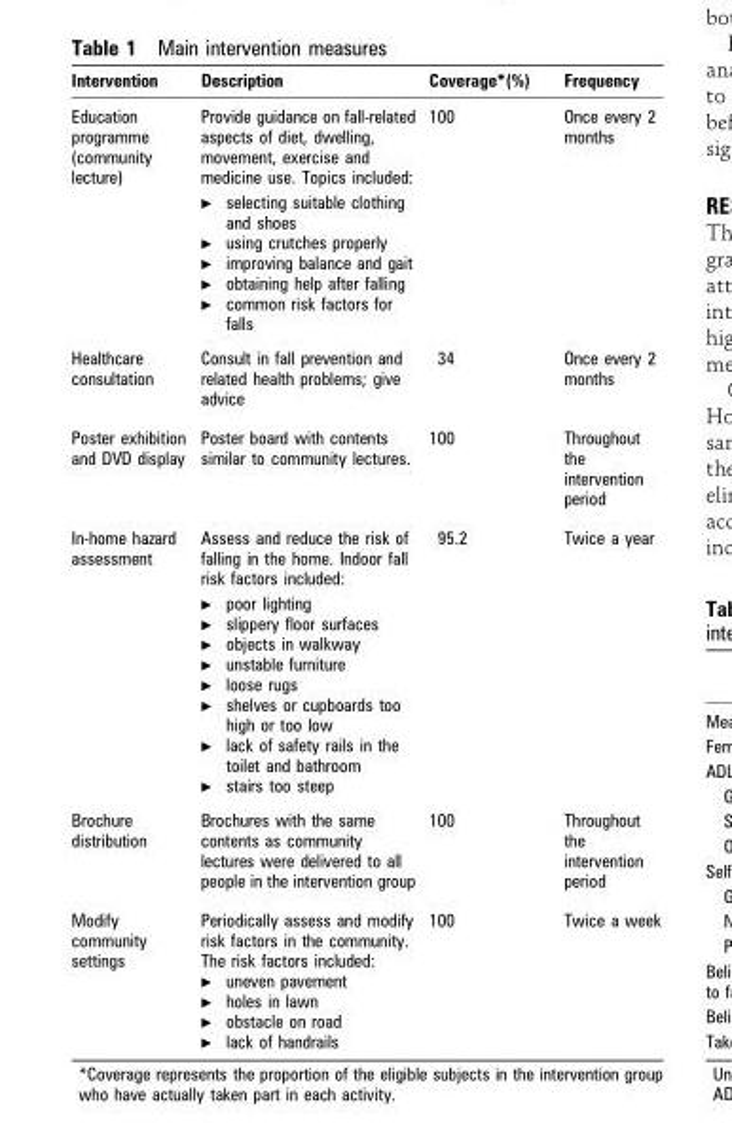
<table><thead><tr><td>Intervention</td><td>Description</td><td>Coverage*(%)</td><td>Frequency</td></tr></thead><tbody><tr><td>Education programme (community lecture)</td><td>Provide guidance on fall-related aspects of diet, dwelling, movement, exercise and medicine use. Topics included: c selecting suitable clothing and shoes c using crutches properly c improving balance and gait c obtaining help after falling c common risk factors for falls</td><td>100</td><td>Once every 2 months</td></tr><tr><td>Healthcare consultation</td><td>Consult in fall prevention and related health problems; give advice</td><td>34</td><td>Once every 2 months</td></tr><tr><td>Poster exhibition and DVD display</td><td>Poster board with contents similar to community lectures.</td><td>100</td><td>Throughout the intervention period</td></tr><tr><td>In-home hazard assessment</td><td>Assess and reduce the risk of falling in the home. Indoor fall risk factors included: c poor lighting c slippery floor surfaces c objects in walkway c unstable furniture c loose rugs c shelves or cupboards too high or too low c lack of safety rails in the toilet and bathroom c stairs too steep</td><td>95.2</td><td>Twice a year</td></tr><tr><td>Brochure distribution</td><td>Brochures with the same contents as community lectures were delivered to all people in the intervention group</td><td>100</td><td>Throughout the intervention period</td></tr><tr><td>Modify community settings</td><td>Periodically assess and modify risk factors in the community. The risk factors included: c uneven pavement c holes in lawn c obstacle on road c lack of handrails</td><td>100</td><td>Twice a week</td></tr></tbody></table>